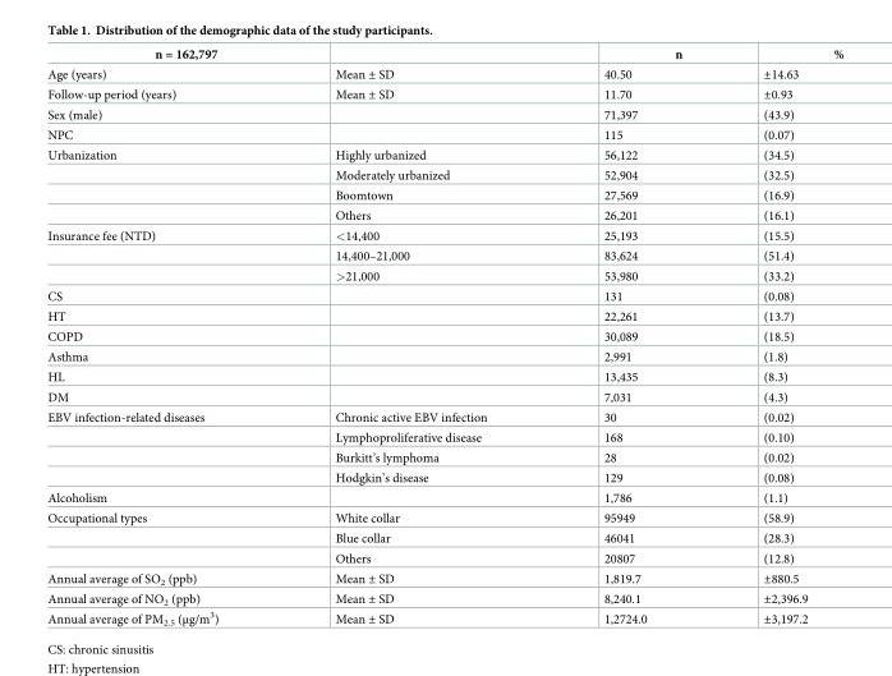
<table><thead><tr><td>n = 162,797</td><td></td><td>n</td><td>%</td></tr></thead><tbody><tr><td>Age (years)</td><td>Mean ± SD</td><td>40.50</td><td>±14.63</td></tr><tr><td>Follow-up period (years)</td><td>Mean ± SD</td><td>11.70</td><td>±0.93</td></tr><tr><td>Sex (male)</td><td></td><td>71,397</td><td>(43.9)</td></tr><tr><td>NPC</td><td></td><td>115</td><td>(0.07)</td></tr><tr><td rowspan="4">Urbanization</td><td>Highly urbanized</td><td>56,122</td><td>(34.5)</td></tr><tr><td>Moderately urbanized</td><td>52,904</td><td>(32.5)</td></tr><tr><td>Boomtown</td><td>27,569</td><td>(16.9)</td></tr><tr><td>Others</td><td>26,201</td><td>(16.1)</td></tr><tr><td rowspan="3">Insurance fee (NTD)</td><td>&lt;14,400</td><td>25,193</td><td>(15.5)</td></tr><tr><td>14,400–21,000</td><td>83,624</td><td>(51.4)</td></tr><tr><td>&gt;21,000</td><td>53,980</td><td>(33.2)</td></tr><tr><td>CS</td><td></td><td>131</td><td>(0.08)</td></tr><tr><td>HT</td><td></td><td>22,261</td><td>(13.7)</td></tr><tr><td>COPD</td><td></td><td>30,089</td><td>(18.5)</td></tr><tr><td>Asthma</td><td></td><td>2,991</td><td>(1.8)</td></tr><tr><td>HL</td><td></td><td>13,435</td><td>(8.3)</td></tr><tr><td>DM</td><td></td><td>7,031</td><td>(4.3)</td></tr><tr><td rowspan="4">EBV infection-related diseases</td><td>Chronic active EBV infection</td><td>30</td><td>(0.02)</td></tr><tr><td>Lymphoproliferative disease</td><td>168</td><td>(0.10)</td></tr><tr><td>Burkitt’s lymphoma</td><td>28</td><td>(0.02)</td></tr><tr><td>Hodgkin’s disease</td><td>129</td><td>(0.08)</td></tr><tr><td>Alcoholism</td><td></td><td>1,786</td><td>(1.1)</td></tr><tr><td rowspan="3">Occupational types</td><td>White collar</td><td>95949</td><td>(58.9)</td></tr><tr><td>Blue collar</td><td>46041</td><td>(28.3)</td></tr><tr><td>Others</td><td>20807</td><td>(12.8)</td></tr><tr><td>Annual average of SO<sub>2</sub> (ppb)</td><td>Mean ± SD</td><td>1,819.7</td><td>±880.5</td></tr><tr><td>Annual average of NO<sub>2</sub> (ppb)</td><td>Mean ± SD</td><td>8,240.1</td><td>±2,396.9</td></tr><tr><td>Annual average of PM<sub>2.5</sub> (μg/m<sup>3</sup>)</td><td>Mean ± SD</td><td>1,2724.0</td><td>±3,197.2</td></tr></tbody></table>